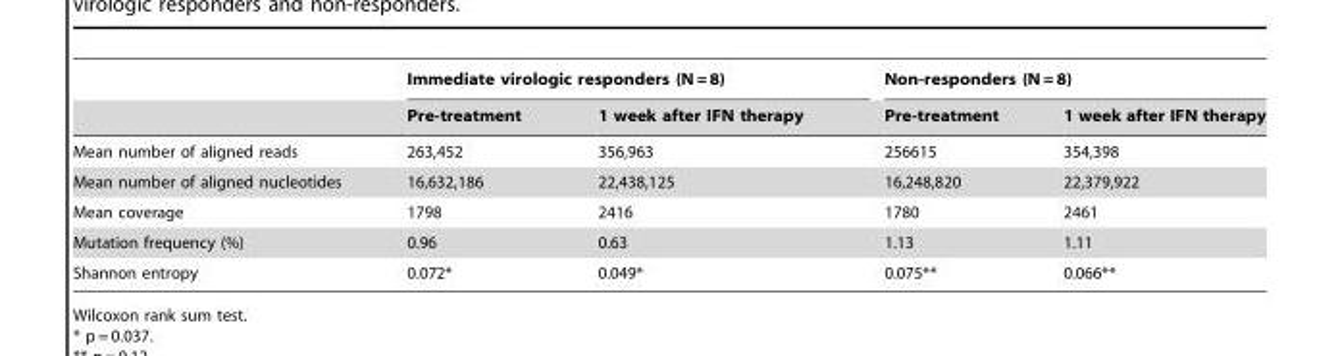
<table><thead><tr><td rowspan="2"></td><td colspan="2">Immediate virologic responders (N = 8)</td><td colspan="2">Non-responders (N = 8)</td></tr><tr><td>Pre-treatment</td><td>1 week after IFN therapy</td><td>Pre-treatment</td><td>1 week after IFN therapy</td></tr></thead><tbody><tr><td>Mean number of aligned reads</td><td>263,452</td><td>356,963</td><td>256615</td><td>354,398</td></tr><tr><td>Mean number of aligned nucleotides</td><td>16,632,186</td><td>22,438,125</td><td>16,248,820</td><td>22,379,922</td></tr><tr><td>Mean coverage</td><td>1798</td><td>2416</td><td>1780</td><td>2461</td></tr><tr><td>Mutation frequency (%)</td><td>0.96</td><td>0.63</td><td>1.13</td><td>1.11</td></tr><tr><td>Shannon entropy</td><td>0.072*</td><td>0.049*</td><td>0.075**</td><td>0.066**</td></tr></tbody></table>